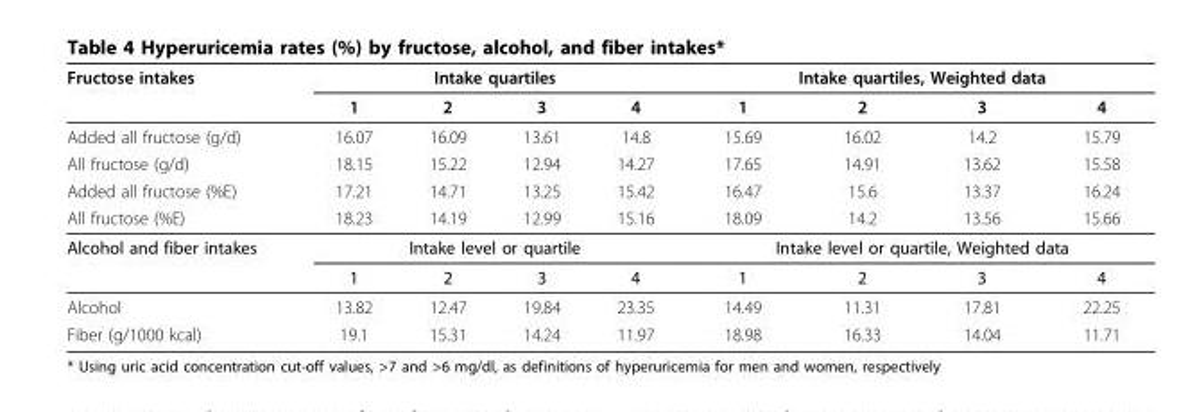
<table><thead><tr><td rowspan="2">Fructose intakes</td><td colspan="4">Intake quartiles</td><td colspan="4">Intake quartiles, Weighted data</td></tr><tr><td>1</td><td>2</td><td>3</td><td>4</td><td>1</td><td>2</td><td>3</td><td>4</td></tr></thead><tbody><tr><td>Added all fructose (g/d)</td><td>16.07</td><td>16.09</td><td>13.61</td><td>14.8</td><td>15.69</td><td>16.02</td><td>14.2</td><td>15.79</td></tr><tr><td>All fructose (g/d)</td><td>18.15</td><td>15.22</td><td>12.94</td><td>14.27</td><td>17.65</td><td>14.91</td><td>13.62</td><td>15.58</td></tr><tr><td>Added all fructose (%E)</td><td>17.21</td><td>14.71</td><td>13.25</td><td>15.42</td><td>16.47</td><td>15.6</td><td>13.37</td><td>16.24</td></tr><tr><td>All fructose (%E)</td><td>18.23</td><td>14.19</td><td>12.99</td><td>15.16</td><td>18.09</td><td>14.2</td><td>13.56</td><td>15.66</td></tr><tr><td rowspan="2">Alcohol and fiber intakes</td><td colspan="4">Intake level or quartile</td><td colspan="4">Intake level or quartile, Weighted data</td></tr><tr><td>1</td><td>2</td><td>3</td><td>4</td><td>1</td><td>2</td><td>3</td><td>4</td></tr><tr><td>Alcohol</td><td>13.82</td><td>12.47</td><td>19.84</td><td>23.35</td><td>14.49</td><td>11.31</td><td>17.81</td><td>22.25</td></tr><tr><td>Fiber (g/1000 kcal)</td><td>19.1</td><td>15.31</td><td>14.24</td><td>11.97</td><td>18.98</td><td>16.33</td><td>14.04</td><td>11.71</td></tr></tbody></table>